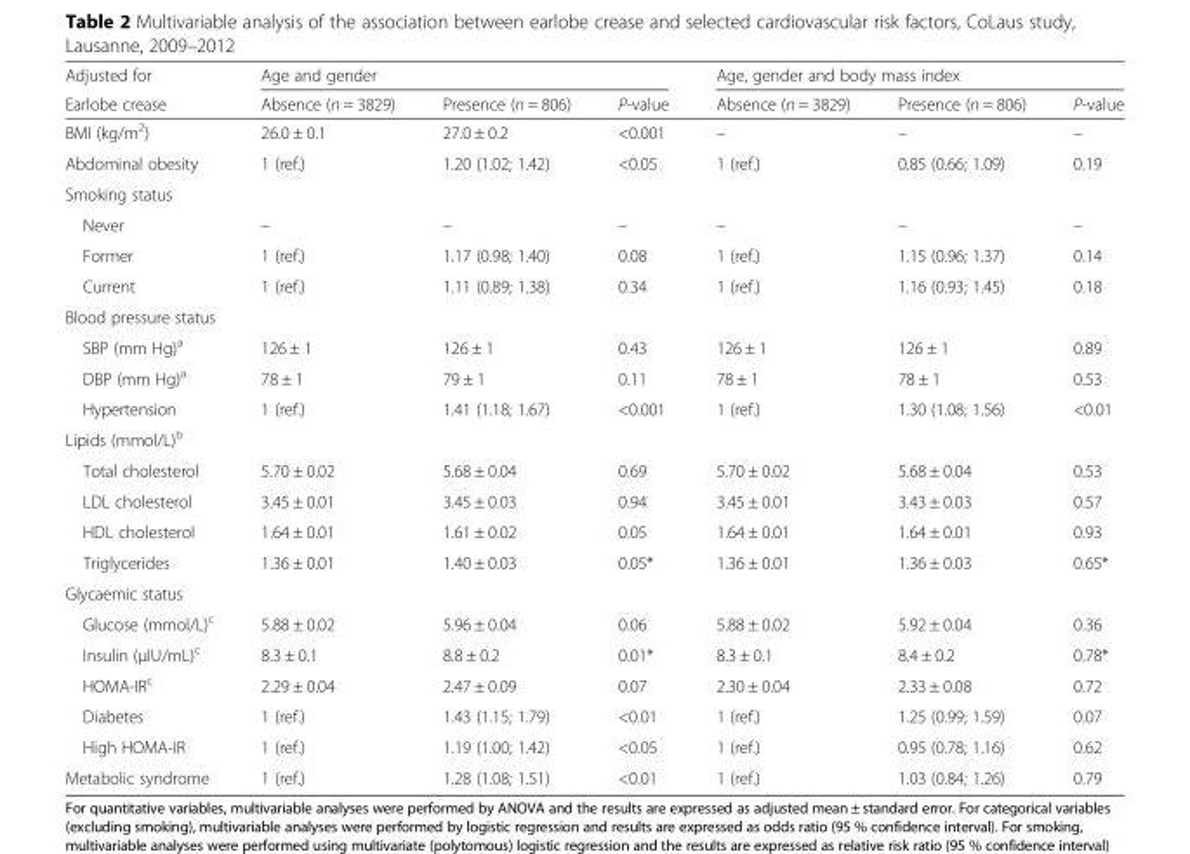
<table><thead><tr><td rowspan="2">Adjusted for Earlobe crease</td><td colspan="3">Age and gender</td><td colspan="3">Age, gender and body mass index</td></tr><tr><td>Absence (n = 3829)</td><td>Presence (n = 806)</td><td>P-value</td><td>Absence (n = 3829)</td><td>Presence (n = 806)</td><td>P-value</td></tr></thead><tbody><tr><td>BMI (kg/m<sup>2</sup>)</td><td>26.0 ± 0.1</td><td>27.0 ± 0.2</td><td>&lt;0.001</td><td>–</td><td>–</td><td>–</td></tr><tr><td>Abdominal obesity</td><td>1 (ref.)</td><td>1.20 (1.02; 1.42)</td><td>&lt;0.05</td><td>1 (ref.)</td><td>0.85 (0.66; 1.09)</td><td>0.19</td></tr><tr><td colspan="7">Smoking status</td></tr><tr><td>Never</td><td>–</td><td>–</td><td>–</td><td>–</td><td>–</td><td>–</td></tr><tr><td>Former</td><td>1 (ref.)</td><td>1.17 (0.98; 1.40)</td><td>0.08</td><td>1 (ref.)</td><td>1.15 (0.96; 1.37)</td><td>0.14</td></tr><tr><td>Current</td><td>1 (ref.)</td><td>1.11 (0.89; 1.38)</td><td>0.34</td><td>1 (ref.)</td><td>1.16 (0.93; 1.45)</td><td>0.18</td></tr><tr><td colspan="7">Blood pressure status</td></tr><tr><td>SBP (mm Hg)<sup>a</sup></td><td>126 ± 1</td><td>126 ± 1</td><td>0.43</td><td>126 ± 1</td><td>126 ± 1</td><td>0.89</td></tr><tr><td>DBP (mm Hg)<sup>a</sup></td><td>78 ± 1</td><td>79 ± 1</td><td>0.11</td><td>78 ± 1</td><td>78 ± 1</td><td>0.53</td></tr><tr><td>Hypertension</td><td>1 (ref.)</td><td>1.41 (1.18; 1.67)</td><td>&lt;0.001</td><td>1 (ref.)</td><td>1.30 (1.08; 1.56)</td><td>&lt;0.01</td></tr><tr><td colspan="7">Lipids (mmol/L)<sup>b</sup></td></tr><tr><td>Total cholesterol</td><td>5.70 ± 0.02</td><td>5.68 ± 0.04</td><td>0.69</td><td>5.70 ± 0.02</td><td>5.68 ± 0.04</td><td>0.53</td></tr><tr><td>LDL cholesterol</td><td>3.45 ± 0.01</td><td>3.45 ± 0.03</td><td>0.94</td><td>3.45 ± 0.01</td><td>3.43 ± 0.03</td><td>0.57</td></tr><tr><td>HDL cholesterol</td><td>1.64 ± 0.01</td><td>1.61 ± 0.02</td><td>0.05</td><td>1.64 ± 0.01</td><td>1.64 ± 0.01</td><td>0.93</td></tr><tr><td>Triglycerides</td><td>1.36 ± 0.01</td><td>1.40 ± 0.03</td><td>0.05*</td><td>1.36 ± 0.01</td><td>1.36 ± 0.03</td><td>0.65*</td></tr><tr><td colspan="7">Glycaemic status</td></tr><tr><td>Glucose (mmol/L)<sup>c</sup></td><td>5.88 ± 0.02</td><td>5.96 ± 0.04</td><td>0.06</td><td>5.88 ± 0.02</td><td>5.92 ± 0.04</td><td>0.36</td></tr><tr><td>Insulin (μIU/mL)<sup>c</sup></td><td>8.3 ± 0.1</td><td>8.8 ± 0.2</td><td>0.01*</td><td>8.3 ± 0.1</td><td>8.4 ± 0.2</td><td>0.78*</td></tr><tr><td>HOMA-IR<sup>c</sup></td><td>2.29 ± 0.04</td><td>2.47 ± 0.09</td><td>0.07</td><td>2.30 ± 0.04</td><td>2.33 ± 0.08</td><td>0.72</td></tr><tr><td>Diabetes</td><td>1 (ref.)</td><td>1.43 (1.15; 1.79)</td><td>&lt;0.01</td><td>1 (ref.)</td><td>1.25 (0.99; 1.59)</td><td>0.07</td></tr><tr><td>High HOMA-IR</td><td>1 (ref.)</td><td>1.19 (1.00; 1.42)</td><td>&lt;0.05</td><td>1 (ref.)</td><td>0.95 (0.78; 1.16)</td><td>0.62</td></tr><tr><td>Metabolic syndrome</td><td>1 (ref.)</td><td>1.28 (1.08; 1.51)</td><td>&lt;0.01</td><td>1 (ref.)</td><td>1.03 (0.84; 1.26)</td><td>0.79</td></tr></tbody></table>